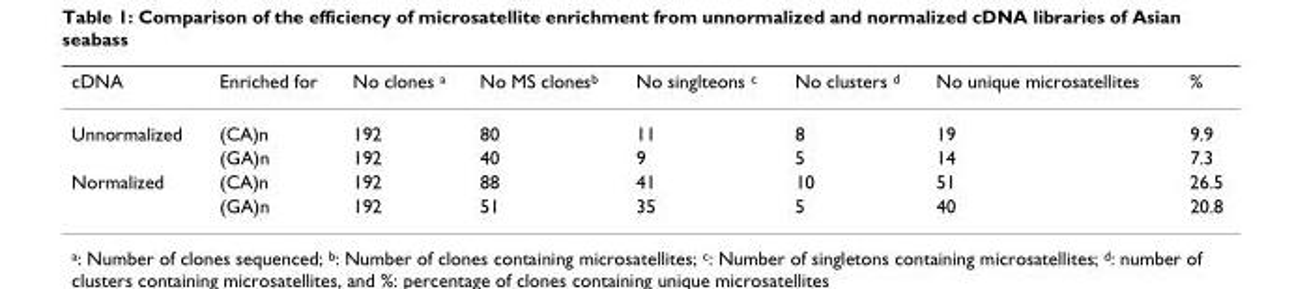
<table><thead><tr><td>cDNA</td><td>Enriched for</td><td>No clones <sup>a</sup></td><td>No MS clones<sup>b</sup></td><td>No singlteons <sup>c</sup></td><td>No clusters <sup>d</sup></td><td>No unique microsatellites</td><td>%</td></tr></thead><tbody><tr><td rowspan="2">Unnormalized</td><td>(CA)n</td><td>192</td><td>80</td><td>11</td><td>8</td><td>19</td><td>9.9</td></tr><tr><td>(GA)n</td><td>192</td><td>40</td><td>9</td><td>5</td><td>14</td><td>7.3</td></tr><tr><td rowspan="2">Normalized</td><td>(CA)n</td><td>192</td><td>88</td><td>41</td><td>10</td><td>51</td><td>26.5</td></tr><tr><td>(GA)n</td><td>192</td><td>51</td><td>35</td><td>5</td><td>40</td><td>20.8</td></tr></tbody></table>